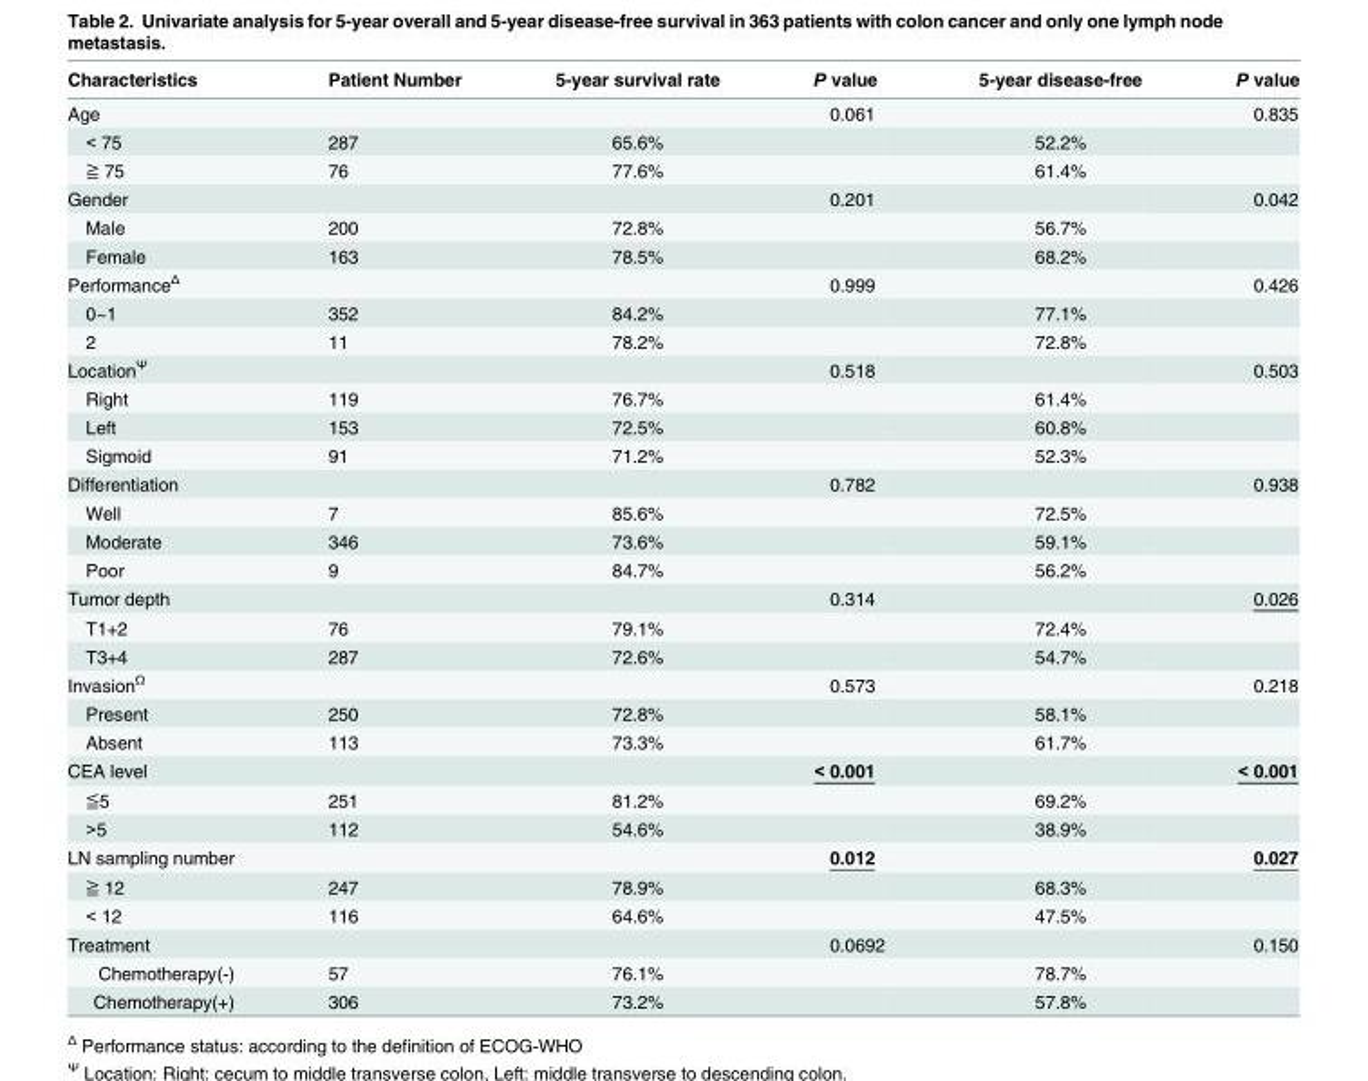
<table><thead><tr><td>Characteristics</td><td>Patient Number</td><td>5-year survival rate</td><td>P value</td><td>5-year disease-free</td><td>P value</td></tr></thead><tbody><tr><td>Age</td><td></td><td></td><td>0.061</td><td></td><td>0.835</td></tr><tr><td>&lt; 75</td><td>287</td><td>65.6%</td><td></td><td>52.2%</td><td></td></tr><tr><td>≧ 75</td><td>76</td><td>77.6%</td><td></td><td>61.4%</td><td></td></tr><tr><td>Gender</td><td></td><td></td><td>0.201</td><td></td><td>0.042</td></tr><tr><td>Male</td><td>200</td><td>72.8%</td><td></td><td>56.7%</td><td></td></tr><tr><td>Female</td><td>163</td><td>78.5%</td><td></td><td>68.2%</td><td></td></tr><tr><td>Performance<sup>Δ</sup></td><td></td><td></td><td>0.999</td><td></td><td>0.426</td></tr><tr><td>0~1</td><td>352</td><td>84.2%</td><td></td><td>77.1%</td><td></td></tr><tr><td>2</td><td>11</td><td>78.2%</td><td></td><td>72.8%</td><td></td></tr><tr><td>Location<sup>Ψ</sup></td><td></td><td></td><td>0.518</td><td></td><td>0.503</td></tr><tr><td>Right</td><td>119</td><td>76.7%</td><td></td><td>61.4%</td><td></td></tr><tr><td>Left</td><td>153</td><td>72.5%</td><td></td><td>60.8%</td><td></td></tr><tr><td>Sigmoid</td><td>91</td><td>71.2%</td><td></td><td>52.3%</td><td></td></tr><tr><td>Differentiation</td><td></td><td></td><td>0.782</td><td></td><td>0.938</td></tr><tr><td>Well</td><td>7</td><td>85.6%</td><td></td><td>72.5%</td><td></td></tr><tr><td>Moderate</td><td>346</td><td>73.6%</td><td></td><td>59.1%</td><td></td></tr><tr><td>Poor</td><td>9</td><td>84.7%</td><td></td><td>56.2%</td><td></td></tr><tr><td>Tumor depth</td><td></td><td></td><td>0.314</td><td></td><td>0.026</td></tr><tr><td>T1+2</td><td>76</td><td>79.1%</td><td></td><td>72.4%</td><td></td></tr><tr><td>T3+4</td><td>287</td><td>72.6%</td><td></td><td>54.7%</td><td></td></tr><tr><td>Invasion<sup>Ω</sup></td><td></td><td></td><td>0.573</td><td></td><td>0.218</td></tr><tr><td>Present</td><td>250</td><td>72.8%</td><td></td><td>58.1%</td><td></td></tr><tr><td>Absent</td><td>113</td><td>73.3%</td><td></td><td>61.7%</td><td></td></tr><tr><td>CEA level</td><td></td><td></td><td>&lt; 0.001</td><td></td><td>&lt; 0.001</td></tr><tr><td>≦5</td><td>251</td><td>81.2%</td><td></td><td>69.2%</td><td></td></tr><tr><td>&gt;5</td><td>112</td><td>54.6%</td><td></td><td>38.9%</td><td></td></tr><tr><td>LN sampling number</td><td></td><td></td><td>0.012</td><td></td><td>0.027</td></tr><tr><td>≧ 12</td><td>247</td><td>78.9%</td><td></td><td>68.3%</td><td></td></tr><tr><td>&lt; 12</td><td>116</td><td>64.6%</td><td></td><td>47.5%</td><td></td></tr><tr><td>Treatment</td><td></td><td></td><td>0.0692</td><td></td><td>0.150</td></tr><tr><td>Chemotherapy(-)</td><td>57</td><td>76.1%</td><td></td><td>78.7%</td><td></td></tr><tr><td>Chemotherapy(+)</td><td>306</td><td>73.2%</td><td></td><td>57.8%</td><td></td></tr></tbody></table>